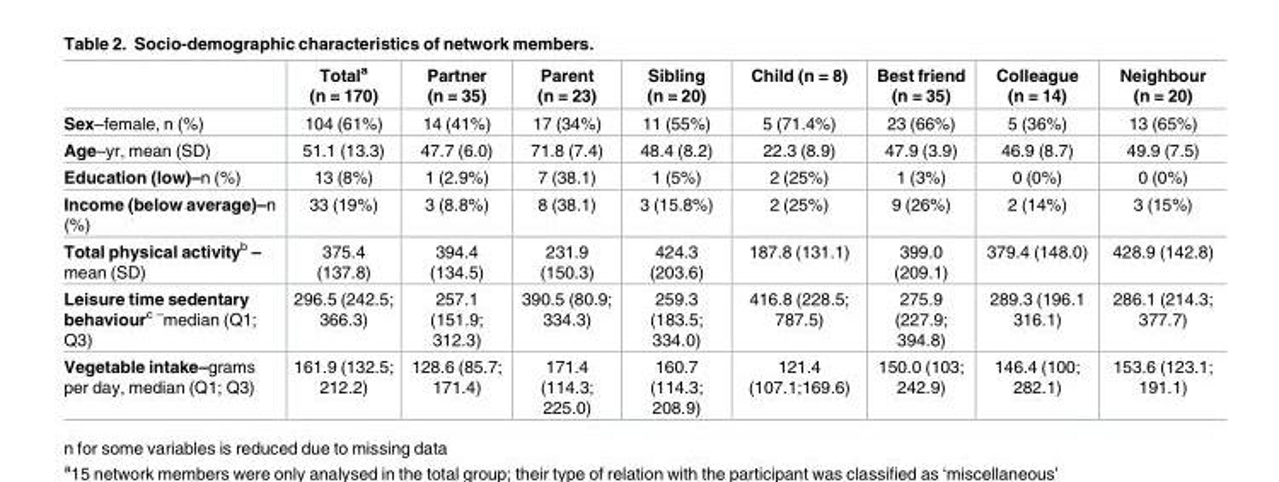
<table><thead><tr><td></td><td>Total<sup>a</sup> (n = 170)</td><td>Partner (n = 35)</td><td>Parent (n = 23)</td><td>Sibling (n = 20)</td><td>Child (n = 8)</td><td>Best friend (n = 35)</td><td>Colleague (n = 14)</td><td>Neighbour (n = 20)</td></tr></thead><tbody><tr><td>Sex–female, n (%)</td><td>104 (61%)</td><td>14 (41%)</td><td>17 (34%)</td><td>11 (55%)</td><td>5 (71.4%)</td><td>23 (66%)</td><td>5 (36%)</td><td>13 (65%)</td></tr><tr><td>Age–yr, mean (SD)</td><td>51.1 (13.3)</td><td>47.7 (6.0)</td><td>71.8 (7.4)</td><td>48.4 (8.2)</td><td>22.3 (8.9)</td><td>47.9 (3.9)</td><td>46.9 (8.7)</td><td>49.9 (7.5)</td></tr><tr><td>Education (low)–n (%)</td><td>13 (8%)</td><td>1 (2.9%)</td><td>7 (38.1)</td><td>1 (5%)</td><td>2 (25%)</td><td>1 (3%)</td><td>0 (0%)</td><td>0 (0%)</td></tr><tr><td>Income (below average)–n (%)</td><td>33 (19%)</td><td>3 (8.8%)</td><td>8 (38.1)</td><td>3 (15.8%)</td><td>2 (25%)</td><td>9 (26%)</td><td>2 (14%)</td><td>3 (15%)</td></tr><tr><td>Total physical activity<sup>b</sup> – mean (SD)</td><td>375.4 (137.8)</td><td>394.4 (134.5)</td><td>231.9 (150.3)</td><td>424.3 (203.6)</td><td>187.8 (131.1)</td><td>399.0 (209.1)</td><td>379.4 (148.0)</td><td>428.9 (142.8)</td></tr><tr><td>Leisure time sedentary behaviour<sup>c –</sup>median (Q1; Q3)</td><td>296.5 (242.5; 366.3)</td><td>257.1 (151.9; 312.3)</td><td>390.5 (80.9; 334.3)</td><td>259.3 (183.5; 334.0)</td><td>416.8 (228.5; 787.5)</td><td>275.9 (227.9; 394.8)</td><td>289.3 (196.1 316.1)</td><td>286.1 (214.3; 377.7)</td></tr><tr><td>Vegetable intake–grams per day, median (Q1; Q3)</td><td>161.9 (132.5; 212.2)</td><td>128.6 (85.7; 171.4)</td><td>171.4 (114.3; 225.0)</td><td>160.7 (114.3; 208.9)</td><td>121.4 (107.1;169.6)</td><td>150.0 (103; 242.9)</td><td>146.4 (100; 282.1)</td><td>153.6 (123.1; 191.1)</td></tr></tbody></table>